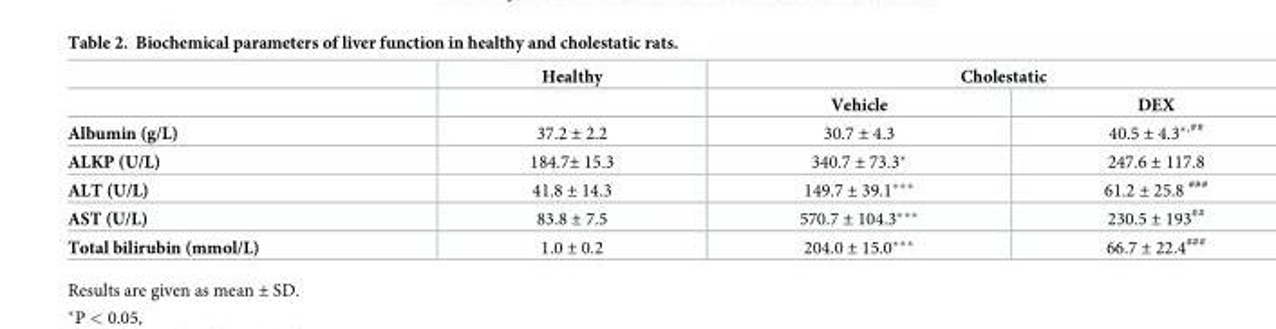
<table><thead><tr><td rowspan="2"></td><td rowspan="2">Healthy</td><td colspan="2">Cholestatic</td></tr><tr><td>Vehicle</td><td>DEX</td></tr></thead><tbody><tr><td>Albumin (g/L)</td><td>37.2 ± 2.2</td><td>30.7 ± 4.3</td><td>40.5 ± 4.3*<sup>,##</sup></td></tr><tr><td>ALKP (U/L)</td><td>184.7± 15.3</td><td>340.7 ± 73.3*</td><td>247.6 ± 117.8</td></tr><tr><td>ALT (U/L)</td><td>41.8 ± 14.3</td><td>149.7 ± 39.1***</td><td>61.2 ± 25.8 <sup>###</sup></td></tr><tr><td>AST (U/L)</td><td>83.8 ± 7.5</td><td>570.7 ± 104.3***</td><td>230.5 ± 193<sup>##</sup></td></tr><tr><td>Total bilirubin (mmol/L)</td><td>1.0 ± 0.2</td><td>204.0 ± 15.0***</td><td>66.7 ± 22.4<sup>###</sup></td></tr></tbody></table>